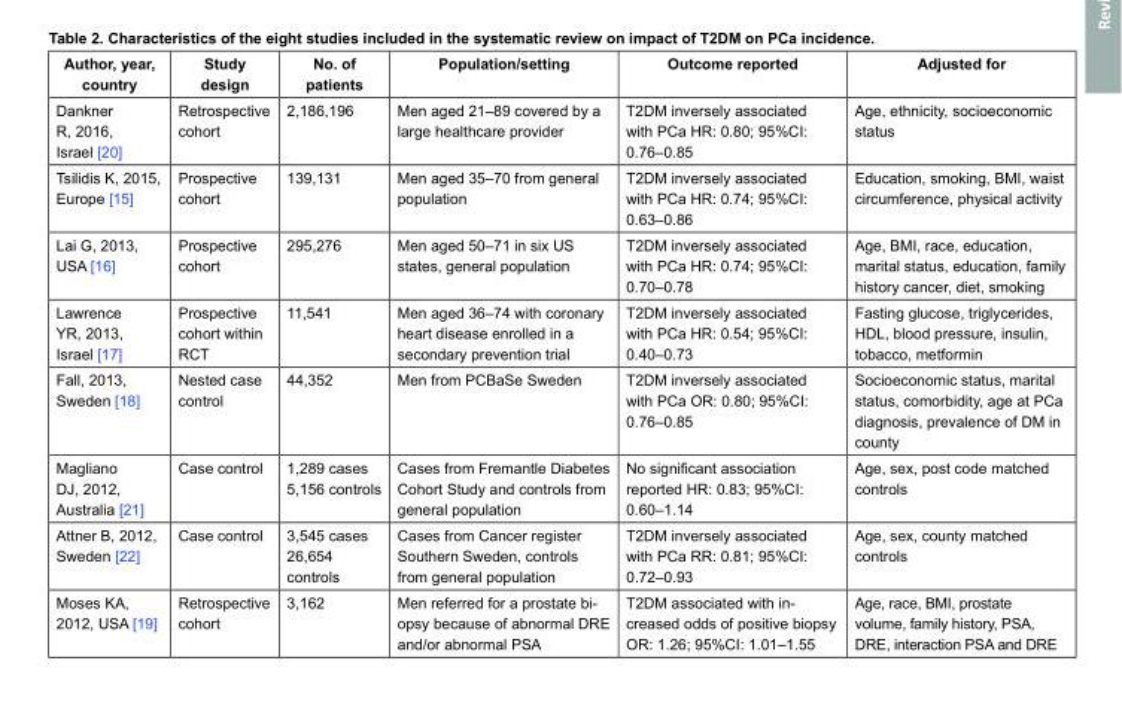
<table><thead><tr><td>Author, year, country</td><td>Study design</td><td>No. of patients</td><td>Population/setting</td><td>Outcome reported</td><td>Adjusted for</td></tr></thead><tbody><tr><td>Dankner R, 2016, Israel [20]</td><td>Retrospective cohort</td><td>2,186,196</td><td>Men aged 21–89 covered by a large healthcare provider</td><td>T2DM inversely associated with PCa HR: 0.80; 95%CI: 0.76–0.85</td><td>Age, ethnicity, socioeconomic status</td></tr><tr><td>Tsilidis K, 2015, Europe [15]</td><td>Prospective cohort</td><td>139,131</td><td>Men aged 35–70 from general population</td><td>T2DM inversely associated with PCa HR: 0.74; 95%CI: 0.63–0.86</td><td>Education, smoking, BMI, waist circumference, physical activity</td></tr><tr><td>Lai G, 2013, USA [16]</td><td>Prospective cohort</td><td>295,276</td><td>Men aged 50–71 in six US states, general population</td><td>T2DM inversely associated with PCa HR: 0.74; 95%CI: 0.70–0.78</td><td>Age, BMI, race, education, marital status, education, family history cancer, diet, smoking</td></tr><tr><td>Lawrence YR, 2013, Israel [17]</td><td>Prospective cohort within RCT</td><td>11,541</td><td>Men aged 36–74 with coronary heart disease enrolled in a secondary prevention trial</td><td>T2DM inversely associated with PCa HR: 0.54; 95%CI: 0.40–0.73</td><td>Fasting glucose, triglycerides, HDL, blood pressure, insulin, tobacco, metformin</td></tr><tr><td>Fall, 2013, Sweden [18]</td><td>Nested case control</td><td>44,352</td><td>Men from PCBaSe Sweden</td><td>T2DM inversely associated with PCa OR: 0.80; 95%CI: 0.76–0.85</td><td>Socioeconomic status, marital status, comorbidity, age at PCa diagnosis, prevalence of DM in county</td></tr><tr><td>Magliano DJ, 2012, Australia [21]</td><td>Case control</td><td>1,289 cases 5,156 controls</td><td>Cases from Fremantle Diabetes Cohort Study and controls from general population</td><td>No significant association reported HR: 0.83; 95%CI: 0.60–1.14</td><td>Age, sex, post code matched controls</td></tr><tr><td>Attner B, 2012, Sweden [22]</td><td>Case control</td><td>3,545 cases 26,654 controls</td><td>Cases from Cancer register Southern Sweden, controls from general population</td><td>T2DM inversely associated with PCa RR: 0.81; 95%CI: 0.72–0.93</td><td>Age, sex, county matched controls</td></tr><tr><td>Moses KA, 2012, USA [19]</td><td>Retrospective cohort</td><td>3,162</td><td>Men referred for a prostate bi- opsy because of abnormal DRE and/or abnormal PSA</td><td>T2DM associated with in- creased odds of positive biopsy OR: 1.26; 95%CI: 1.01–1.55</td><td>Age, race, BMI, prostate volume, family history, PSA, DRE, interaction PSA and DRE</td></tr></tbody></table>